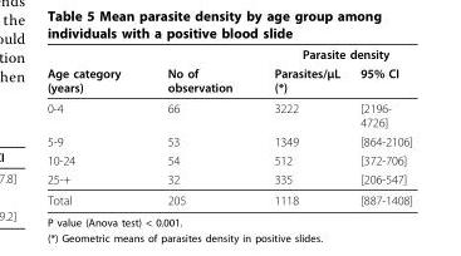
<table><thead><tr><td rowspan="2">Age category (years)</td><td rowspan="2">No of observation</td><td colspan="2">Parasite density</td></tr><tr><td>Parasites/μL (*)</td><td>95% CI</td></tr></thead><tbody><tr><td>0-4</td><td>66</td><td>3222</td><td>[2196- 4726]</td></tr><tr><td>5-9</td><td>53</td><td>1349</td><td>[864-2106]</td></tr><tr><td>10-24</td><td>54</td><td>512</td><td>[372-706]</td></tr><tr><td>25-+</td><td>32</td><td>335</td><td>[206-547]</td></tr><tr><td>Total</td><td>205</td><td>1118</td><td>[887-1408]</td></tr></tbody></table>